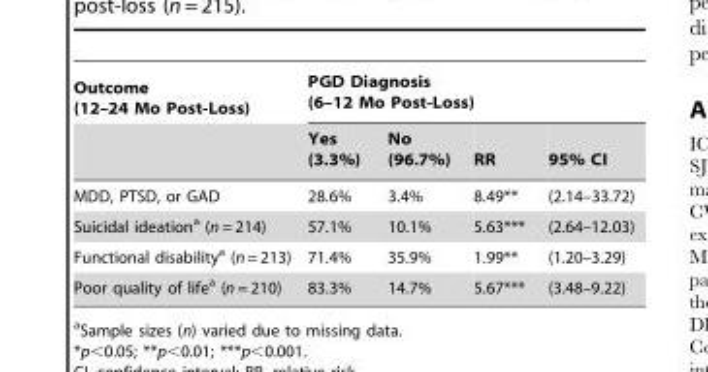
<table><thead><tr><td rowspan="2">Outcome (12–24 Mo Post-Loss)</td><td colspan="4">PGD Diagnosis (6–12 Mo Post-Loss)</td></tr><tr><td>Yes (3.3%)</td><td>No (96.7%)</td><td>RR</td><td>95% CI</td></tr></thead><tbody><tr><td>MDD, PTSD, or GAD</td><td>28.6%</td><td>3.4%</td><td>8.49**</td><td>(2.14–33.72)</td></tr><tr><td>Suicidal ideation<sup>a</sup> (n = 214)</td><td>57.1%</td><td>10.1%</td><td>5.63***</td><td>(2.64–12.03)</td></tr><tr><td>Functional disability<sup>a</sup> (n = 213)</td><td>71.4%</td><td>35.9%</td><td>1.99**</td><td>(1.20–3.29)</td></tr><tr><td>Poor quality of life<sup>a</sup> (n = 210)</td><td>83.3%</td><td>14.7%</td><td>5.67***</td><td>(3.48–9.22)</td></tr></tbody></table>